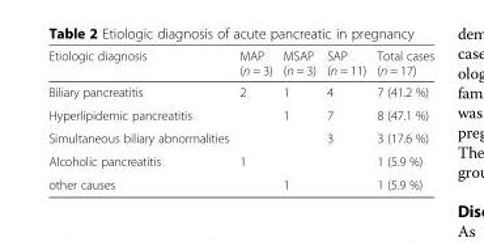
<table><thead><tr><td>Etiologic diagnosis</td><td>MAP (n = 3)</td><td>MSAP (n = 3)</td><td>SAP (n = 11)</td><td>Total cases (n = 17)</td></tr></thead><tbody><tr><td>Biliary pancreatitis</td><td>2</td><td>1</td><td>4</td><td>7 (41.2 %)</td></tr><tr><td>Hyperlipidemic pancreatitis</td><td></td><td>1</td><td>7</td><td>8 (47.1 %)</td></tr><tr><td>Simultaneous biliary abnormalities</td><td></td><td></td><td>3</td><td>3 (17.6 %)</td></tr><tr><td>Alcoholic pancreatitis</td><td>1</td><td></td><td></td><td>1 (5.9 %)</td></tr><tr><td>other causes</td><td></td><td>1</td><td></td><td>1 (5.9 %)</td></tr></tbody></table>